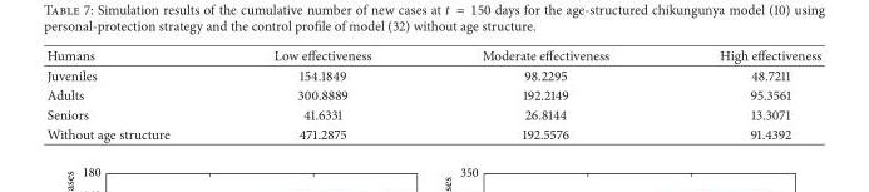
<table><thead><tr><td>Humans</td><td>Low effectiveness</td><td>Moderate effectiveness</td><td>High effectiveness</td></tr></thead><tbody><tr><td>Juveniles</td><td>154.1849</td><td>98.2295</td><td>48.7211</td></tr><tr><td>Adults</td><td>300.8889</td><td>192.2149</td><td>95.3561</td></tr><tr><td>Seniors</td><td>41.6331</td><td>26.8144</td><td>13.3071</td></tr><tr><td>Without age structure</td><td>471.2875</td><td>192.5576</td><td>91.4392</td></tr></tbody></table>